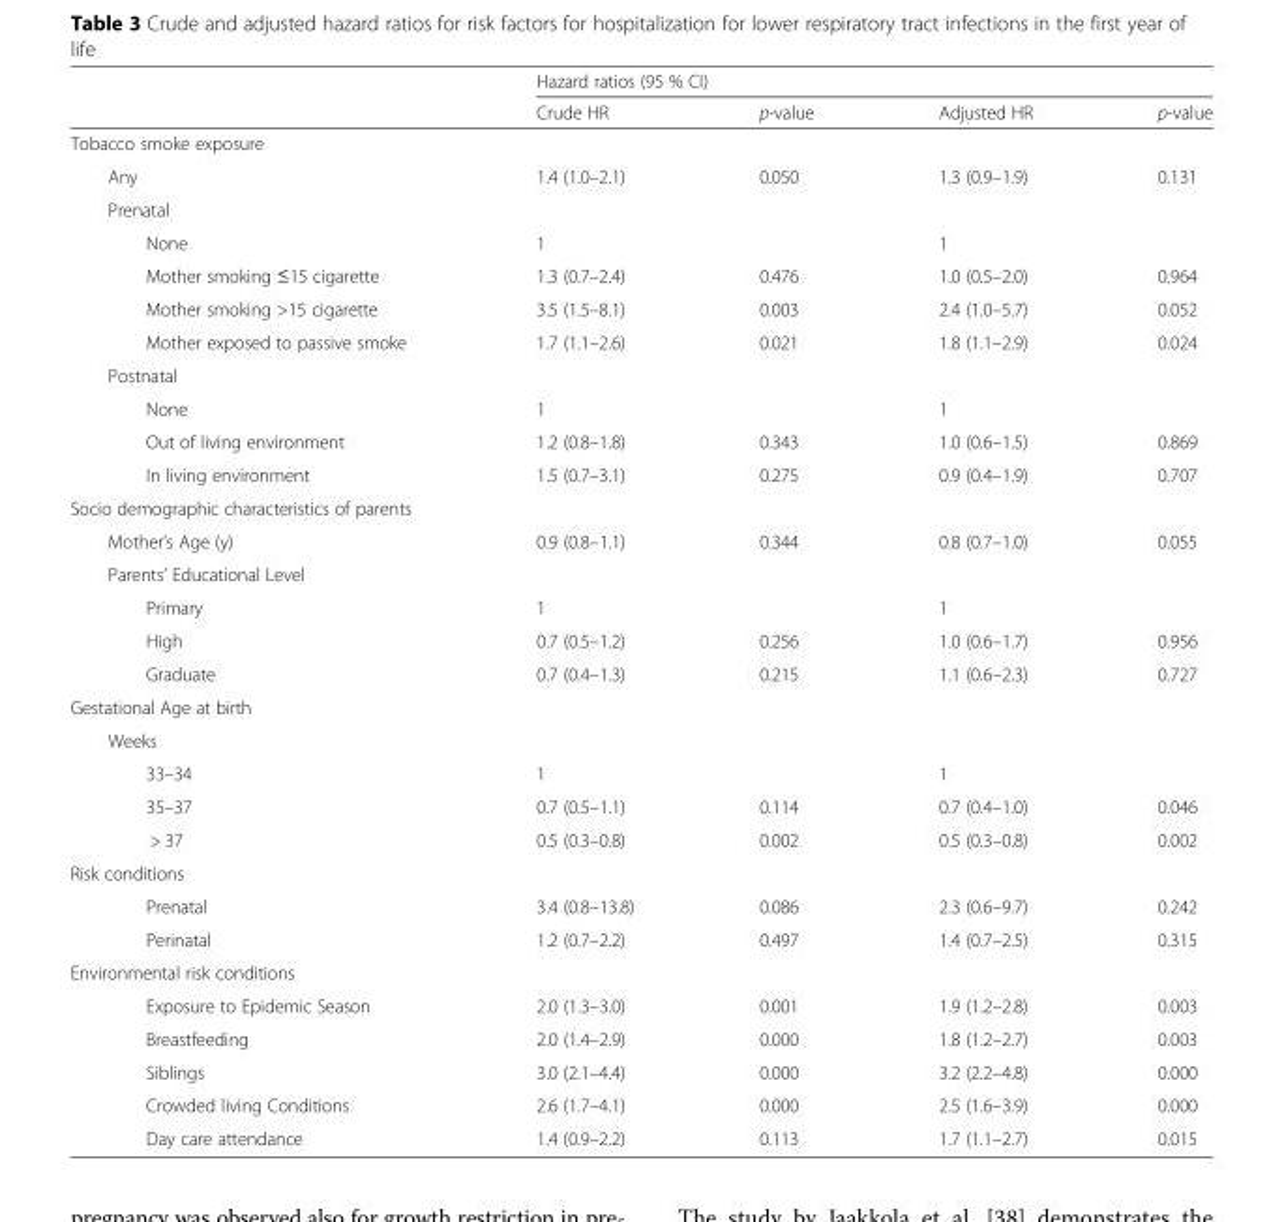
<table><thead><tr><td rowspan="2"></td><td colspan="4">Hazard ratios (95 % CI)</td></tr><tr><td>Crude HR</td><td>p-value</td><td>Adjusted HR</td><td>p-value</td></tr></thead><tbody><tr><td colspan="5">Tobacco smoke exposure</td></tr><tr><td>Any</td><td>1.4 (1.0–2.1)</td><td>0.050</td><td>1.3 (0.9–1.9)</td><td>0.131</td></tr><tr><td colspan="5">Prenatal</td></tr><tr><td>None</td><td>1</td><td></td><td>1</td><td></td></tr><tr><td>Mother smoking ≤15 cigarette</td><td>1.3 (0.7–2.4)</td><td>0.476</td><td>1.0 (0.5–2.0)</td><td>0.964</td></tr><tr><td>Mother smoking &gt;15 cigarette</td><td>3.5 (1.5–8.1)</td><td>0.003</td><td>2.4 (1.0–5.7)</td><td>0.052</td></tr><tr><td>Mother exposed to passive smoke</td><td>1.7 (1.1–2.6)</td><td>0.021</td><td>1.8 (1.1–2.9)</td><td>0.024</td></tr><tr><td colspan="5">Postnatal</td></tr><tr><td>None</td><td>1</td><td></td><td>1</td><td></td></tr><tr><td>Out of living environment</td><td>1.2 (0.8–1.8)</td><td>0.343</td><td>1.0 (0.6–1.5)</td><td>0.869</td></tr><tr><td>In living environment</td><td>1.5 (0.7–3.1)</td><td>0.275</td><td>0.9 (0.4–1.9)</td><td>0.707</td></tr><tr><td colspan="5">Socio demographic characteristics of parents</td></tr><tr><td>Mother’s Age (y)</td><td>0.9 (0.8–1.1)</td><td>0.344</td><td>0.8 (0.7–1.0)</td><td>0.055</td></tr><tr><td colspan="5">Parents’ Educational Level</td></tr><tr><td>Primary</td><td>1</td><td></td><td>1</td><td></td></tr><tr><td>High</td><td>0.7 (0.5–1.2)</td><td>0.256</td><td>1.0 (0.6–1.7)</td><td>0.956</td></tr><tr><td>Graduate</td><td>0.7 (0.4–1.3)</td><td>0.215</td><td>1.1 (0.6–2.3)</td><td>0.727</td></tr><tr><td colspan="5">Gestational Age at birth</td></tr><tr><td colspan="5">Weeks</td></tr><tr><td>33–34</td><td>1</td><td></td><td>1</td><td></td></tr><tr><td>35–37</td><td>0.7 (0.5–1.1)</td><td>0.114</td><td>0.7 (0.4–1.0)</td><td>0.046</td></tr><tr><td>&gt; 37</td><td>0.5 (0.3–0.8)</td><td>0.002</td><td>0.5 (0.3–0.8)</td><td>0.002</td></tr><tr><td colspan="5">Risk conditions</td></tr><tr><td>Prenatal</td><td>3.4 (0.8–13.8)</td><td>0.086</td><td>2.3 (0.6–9.7)</td><td>0.242</td></tr><tr><td>Perinatal</td><td>1.2 (0.7–2.2)</td><td>0.497</td><td>1.4 (0.7–2.5)</td><td>0.315</td></tr><tr><td colspan="5">Environmental risk conditions</td></tr><tr><td>Exposure to Epidemic Season</td><td>2.0 (1.3–3.0)</td><td>0.001</td><td>1.9 (1.2–2.8)</td><td>0.003</td></tr><tr><td>Breastfeeding</td><td>2.0 (1.4–2.9)</td><td>0.000</td><td>1.8 (1.2–2.7)</td><td>0.003</td></tr><tr><td>Siblings</td><td>3.0 (2.1–4.4)</td><td>0.000</td><td>3.2 (2.2–4.8)</td><td>0.000</td></tr><tr><td>Crowded living Conditions</td><td>2.6 (1.7–4.1)</td><td>0.000</td><td>2.5 (1.6–3.9)</td><td>0.000</td></tr><tr><td>Day care attendance</td><td>1.4 (0.9–2.2)</td><td>0.113</td><td>1.7 (1.1–2.7)</td><td>0.015</td></tr></tbody></table>